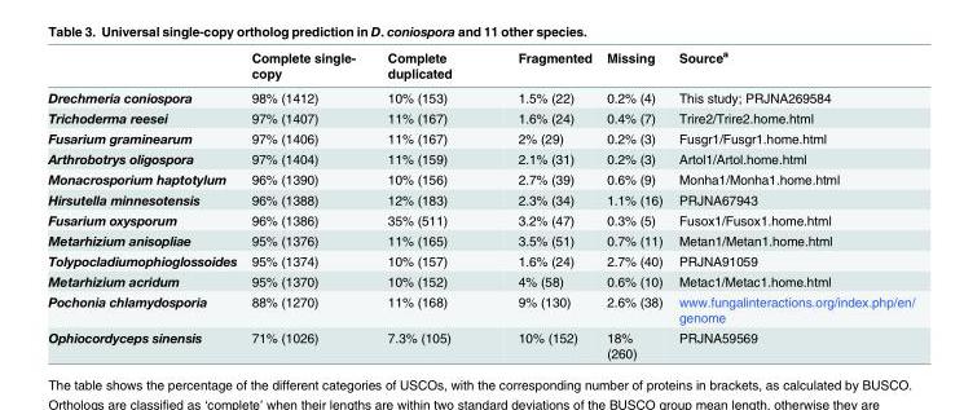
<table><thead><tr><td></td><td>Complete single- copy</td><td>Complete duplicated</td><td>Fragmented</td><td>Missing</td><td>Source<sup>a</sup></td></tr></thead><tbody><tr><td>Drechmeria coniospora</td><td>98% (1412)</td><td>10% (153)</td><td>1.5% (22)</td><td>0.2% (4)</td><td>This study; PRJNA269584</td></tr><tr><td>Trichoderma reesei</td><td>97% (1407)</td><td>11% (167)</td><td>1.6% (24)</td><td>0.4% (7)</td><td>Trire2/Trire2.home.html</td></tr><tr><td>Fusarium graminearum</td><td>97% (1406)</td><td>11% (167)</td><td>2% (29)</td><td>0.2% (3)</td><td>Fusgr1/Fusgr1.home.html</td></tr><tr><td>Arthrobotrys oligospora</td><td>97% (1404)</td><td>11% (159)</td><td>2.1% (31)</td><td>0.2% (3)</td><td>Artol1/Artol.home.html</td></tr><tr><td>Monacrosporium haptotylum</td><td>96% (1390)</td><td>10% (156)</td><td>2.7% (39)</td><td>0.6% (9)</td><td>Monha1/Monha1.home.html</td></tr><tr><td>Hirsutella minnesotensis</td><td>96% (1388)</td><td>12% (183)</td><td>2.3% (34)</td><td>1.1% (16)</td><td>PRJNA67943</td></tr><tr><td>Fusarium oxysporum</td><td>96% (1386)</td><td>35% (511)</td><td>3.2% (47)</td><td>0.3% (5)</td><td>Fusox1/Fusox1.home.html</td></tr><tr><td>Metarhizium anisopliae</td><td>95% (1376)</td><td>11% (165)</td><td>3.5% (51)</td><td>0.7% (11)</td><td>Metan1/Metan1.home.html</td></tr><tr><td>Tolypocladiumophioglossoides</td><td>95% (1374)</td><td>10% (157)</td><td>1.6% (24)</td><td>2.7% (40)</td><td>PRJNA91059</td></tr><tr><td>Metarhizium acridum</td><td>95% (1370)</td><td>10% (152)</td><td>4% (58)</td><td>0.6% (10)</td><td>Metac1/Metac1.home.html</td></tr><tr><td>Pochonia chlamydosporia</td><td>88% (1270)</td><td>11% (168)</td><td>9% (130)</td><td>2.6% (38)</td><td>www.fungalinteractions.org/index.php/en/ genome</td></tr><tr><td>Ophiocordyceps sinensis</td><td>71% (1026)</td><td>7.3% (105)</td><td>10% (152)</td><td>18% (260)</td><td>PRJNA59569</td></tr></tbody></table>